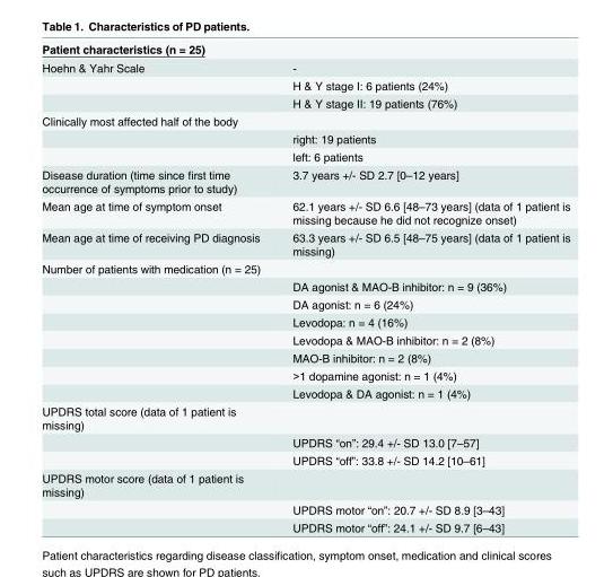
<table><tbody><tr><td colspan="2">Patient characteristics (n = 25)</td></tr><tr><td rowspan="3">Hoehn &amp; Yahr Scale</td><td>-</td></tr><tr><td>H &amp; Y stage I: 6 patients (24%)</td></tr><tr><td>H &amp; Y stage II: 19 patients (76%)</td></tr><tr><td colspan="2">Clinically most affected half of the body</td></tr><tr><td></td><td>right: 19 patients</td></tr><tr><td></td><td>left: 6 patients</td></tr><tr><td>Disease duration (time since first time occurrence of symptoms prior to study)</td><td>3.7 years +/- SD 2.7 [0–12 years]</td></tr><tr><td>Mean age at time of symptom onset</td><td>62.1 years +/- SD 6.6 [48–73 years] (data of 1 patient is missing because he did not recognize onset)</td></tr><tr><td>Mean age at time of receiving PD diagnosis</td><td>63.3 years +/- SD 6.5 [48–75 years] (data of 1 patient is missing)</td></tr><tr><td colspan="2">Number of patients with medication (n = 25)</td></tr><tr><td></td><td>DA agonist &amp; MAO-B inhibitor: n = 9 (36%)</td></tr><tr><td></td><td>DA agonist: n = 6 (24%)</td></tr><tr><td></td><td>Levodopa: n = 4 (16%)</td></tr><tr><td></td><td>Levodopa &amp; MAO-B inhibitor: n = 2 (8%)</td></tr><tr><td></td><td>MAO-B inhibitor: n = 2 (8%)</td></tr><tr><td></td><td>&gt;1 dopamine agonist: n = 1 (4%)</td></tr><tr><td></td><td>Levodopa &amp; DA agonist: n = 1 (4%)</td></tr><tr><td colspan="2">UPDRS total score (data of 1 patient is missing)</td></tr><tr><td></td><td>UPDRS “on”: 29.4 +/- SD 13.0 [7–57]</td></tr><tr><td></td><td>UPDRS “off”: 33.8 +/- SD 14.2 [10–61]</td></tr><tr><td colspan="2">UPDRS motor score (data of 1 patient is missing)</td></tr><tr><td></td><td>UPDRS motor “on”: 20.7 +/- SD 8.9 [3–43]</td></tr><tr><td></td><td>UPDRS motor “off”: 24.1 +/- SD 9.7 [6–43]</td></tr></tbody></table>